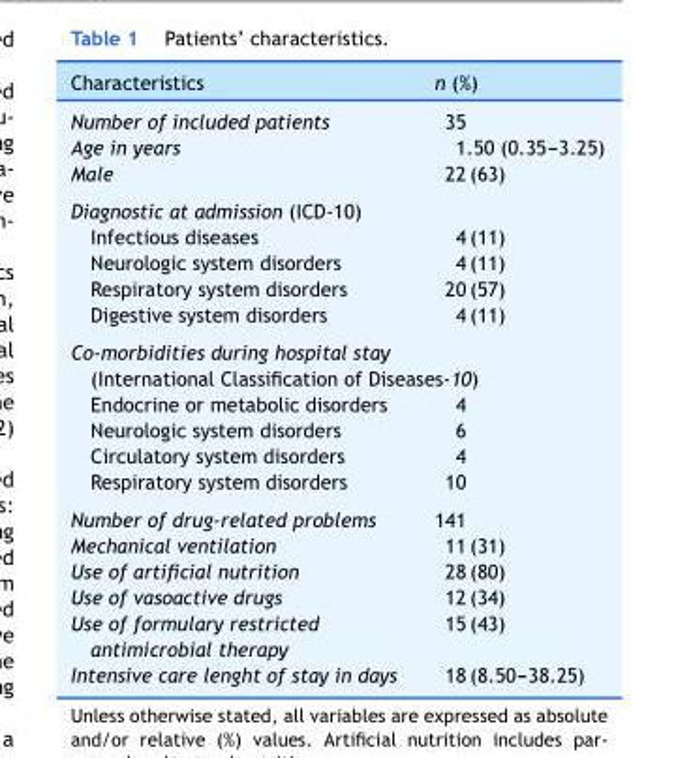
<table><thead><tr><td>Characteristics</td><td>n (%)</td></tr></thead><tbody><tr><td>Number of included patients</td><td>35</td></tr><tr><td>Age in years</td><td>1.50 (0.35---3.25)</td></tr><tr><td>Male</td><td>22 (63)</td></tr><tr><td colspan="2">Diagnostic at admission (ICD-10)</td></tr><tr><td>Infectious diseases</td><td>4 (11)</td></tr><tr><td>Neurologic system disorders</td><td>4 (11)</td></tr><tr><td>Respiratory system disorders</td><td>20 (57)</td></tr><tr><td>Digestive system disorders</td><td>4 (11)</td></tr><tr><td colspan="2">Co-morbidities during hospital stay (International Classification of Diseases-10)</td></tr><tr><td>Endocrine or metabolic disorders</td><td>4</td></tr><tr><td>Neurologic system disorders</td><td>6</td></tr><tr><td>Circulatory system disorders</td><td>4</td></tr><tr><td>Respiratory system disorders</td><td>10</td></tr><tr><td>Number of drug-related problems</td><td>141</td></tr><tr><td>Mechanical ventilation</td><td>11 (31)</td></tr><tr><td>Use of artificial nutrition</td><td>28 (80)</td></tr><tr><td>Use of vasoactive drugs</td><td>12 (34)</td></tr><tr><td>Use of formulary restricted antimicrobial therapy</td><td>15 (43)</td></tr><tr><td>Intensive care lenght of stay in days</td><td>18 (8.50---38.25)</td></tr></tbody></table>